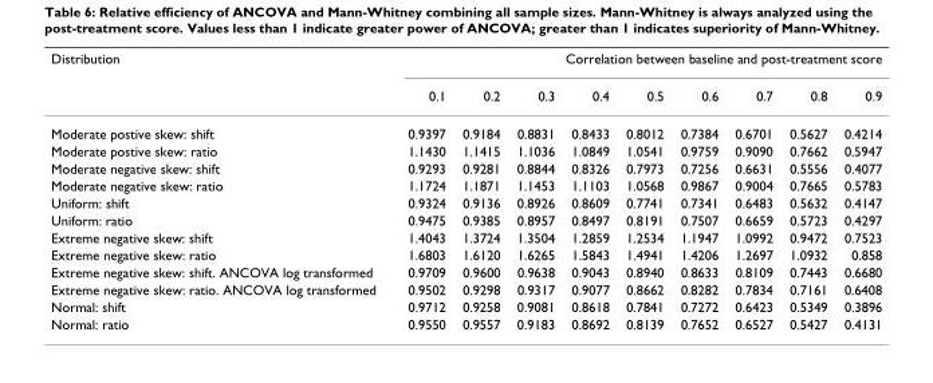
<table><thead><tr><td rowspan="2">Distribution</td><td colspan="9">Correlation between baseline and post-treatment score</td></tr><tr><td>0.1</td><td>0.2</td><td>0.3</td><td>0.4</td><td>0.5</td><td>0.6</td><td>0.7</td><td>0.8</td><td>0.9</td></tr></thead><tbody><tr><td>Moderate postive skew: shift</td><td>0.9397</td><td>0.9184</td><td>0.8831</td><td>0.8433</td><td>0.8012</td><td>0.7384</td><td>0.6701</td><td>0.5627</td><td>0.4214</td></tr><tr><td>Moderate postive skew: ratio</td><td>1.1430</td><td>1.1415</td><td>1.1036</td><td>1.0849</td><td>1.0541</td><td>0.9759</td><td>0.9090</td><td>0.7662</td><td>0.5947</td></tr><tr><td>Moderate negative skew: shift</td><td>0.9293</td><td>0.9281</td><td>0.8844</td><td>0.8326</td><td>0.7973</td><td>0.7256</td><td>0.6631</td><td>0.5556</td><td>0.4077</td></tr><tr><td>Moderate negative skew: ratio</td><td>1.1724</td><td>1.1871</td><td>1.1453</td><td>1.1103</td><td>1.0568</td><td>0.9867</td><td>0.9004</td><td>0.7665</td><td>0.5783</td></tr><tr><td>Uniform: shift</td><td>0.9324</td><td>0.9136</td><td>0.8926</td><td>0.8609</td><td>0.7741</td><td>0.7341</td><td>0.6483</td><td>0.5632</td><td>0.4147</td></tr><tr><td>Uniform: ratio</td><td>0.9475</td><td>0.9385</td><td>0.8957</td><td>0.8497</td><td>0.8191</td><td>0.7507</td><td>0.6659</td><td>0.5723</td><td>0.4297</td></tr><tr><td>Extreme negative skew: shift</td><td>1.4043</td><td>1.3724</td><td>1.3504</td><td>1.2859</td><td>1.2534</td><td>1.1947</td><td>1.0992</td><td>0.9472</td><td>0.7523</td></tr><tr><td>Extreme negative skew: ratio</td><td>1.6803</td><td>1.6120</td><td>1.6265</td><td>1.5843</td><td>1.4941</td><td>1.4206</td><td>1.2697</td><td>1.0932</td><td>0.858</td></tr><tr><td>Extreme negative skew: shift. ANCOVA log transformed</td><td>0.9709</td><td>0.9600</td><td>0.9638</td><td>0.9043</td><td>0.8940</td><td>0.8633</td><td>0.8109</td><td>0.7443</td><td>0.6680</td></tr><tr><td>Extreme negative skew: ratio. ANCOVA log transformed</td><td>0.9502</td><td>0.9298</td><td>0.9317</td><td>0.9077</td><td>0.8662</td><td>0.8282</td><td>0.7834</td><td>0.7161</td><td>0.6408</td></tr><tr><td>Normal: shift</td><td>0.9712</td><td>0.9258</td><td>0.9081</td><td>0.8618</td><td>0.7841</td><td>0.7272</td><td>0.6423</td><td>0.5349</td><td>0.3896</td></tr><tr><td>Normal: ratio</td><td>0.9550</td><td>0.9557</td><td>0.9183</td><td>0.8692</td><td>0.8139</td><td>0.7652</td><td>0.6527</td><td>0.5427</td><td>0.4131</td></tr></tbody></table>